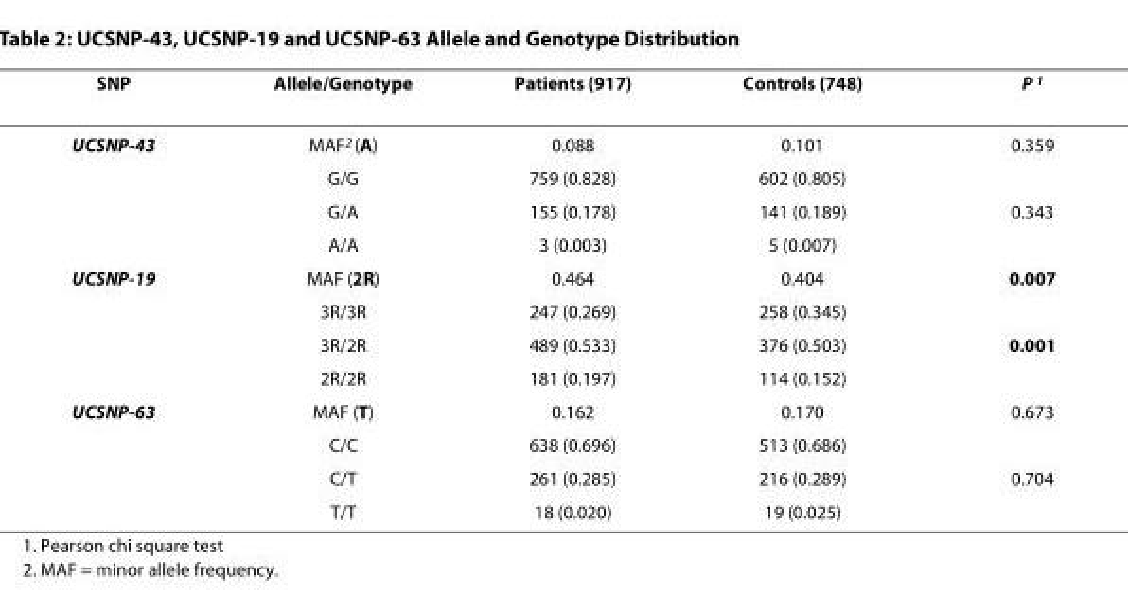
<table><thead><tr><td>SNP</td><td>Allele/Genotype</td><td>Patients (917)</td><td>Controls (748)</td><td>P <sup>1</sup></td></tr></thead><tbody><tr><td rowspan="4">UCSNP-43</td><td>MAF<sup>2</sup> (A)</td><td>0.088</td><td>0.101</td><td>0.359</td></tr><tr><td>G/G</td><td>759 (0.828)</td><td>602 (0.805)</td><td></td></tr><tr><td>G/A</td><td>155 (0.178)</td><td>141 (0.189)</td><td>0.343</td></tr><tr><td>A/A</td><td>3 (0.003)</td><td>5 (0.007)</td><td></td></tr><tr><td rowspan="4">UCSNP-19</td><td>MAF (2R)</td><td>0.464</td><td>0.404</td><td>0.007</td></tr><tr><td>3R/3R</td><td>247 (0.269)</td><td>258 (0.345)</td><td></td></tr><tr><td>3R/2R</td><td>489 (0.533)</td><td>376 (0.503)</td><td>0.001</td></tr><tr><td>2R/2R</td><td>181 (0.197)</td><td>114 (0.152)</td><td></td></tr><tr><td rowspan="4">UCSNP-63</td><td>MAF (T)</td><td>0.162</td><td>0.170</td><td>0.673</td></tr><tr><td>C/C</td><td>638 (0.696)</td><td>513 (0.686)</td><td></td></tr><tr><td>C/T</td><td>261 (0.285)</td><td>216 (0.289)</td><td>0.704</td></tr><tr><td>T/T</td><td>18 (0.020)</td><td>19 (0.025)</td><td></td></tr></tbody></table>